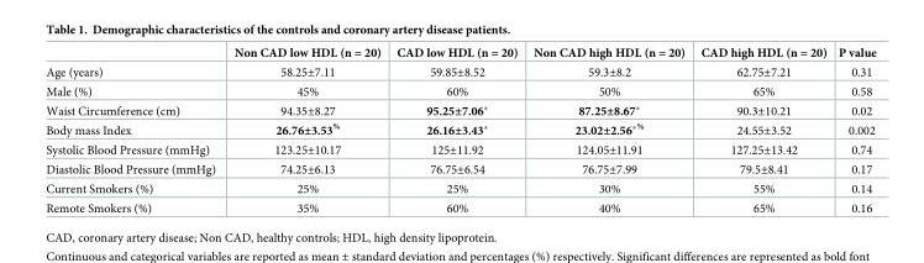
<table><thead><tr><td></td><td>Non CAD low HDL (n = 20)</td><td>CAD low HDL (n = 20)</td><td>Non CAD high HDL (n = 20)</td><td>CAD high HDL (n = 20)</td><td>P value</td></tr></thead><tbody><tr><td>Age (years)</td><td>58.25±7.11</td><td>59.85±8.52</td><td>59.3±8.2</td><td>62.75±7.21</td><td>0.31</td></tr><tr><td>Male (%)</td><td>45%</td><td>60%</td><td>50%</td><td>65%</td><td>0.58</td></tr><tr><td>Waist Circumference (cm)</td><td>94.35±8.27</td><td>95.25±7.06*</td><td>87.25±8.67*</td><td>90.3±10.21</td><td>0.02</td></tr><tr><td>Body mass Index</td><td>26.76±3.53<sup>%</sup></td><td>26.16±3.43*</td><td>23.02±2.56*<sup>%</sup></td><td>24.55±3.52</td><td>0.002</td></tr><tr><td>Systolic Blood Pressure (mmHg)</td><td>123.25±10.17</td><td>125±11.92</td><td>124.05±11.91</td><td>127.25±13.42</td><td>0.74</td></tr><tr><td>Diastolic Blood Pressure (mmHg)</td><td>74.25±6.13</td><td>76.75±6.54</td><td>76.75±7.99</td><td>79.5±8.41</td><td>0.17</td></tr><tr><td>Current Smokers (%)</td><td>25%</td><td>25%</td><td>30%</td><td>55%</td><td>0.14</td></tr><tr><td>Remote Smokers (%)</td><td>35%</td><td>60%</td><td>40%</td><td>65%</td><td>0.16</td></tr></tbody></table>